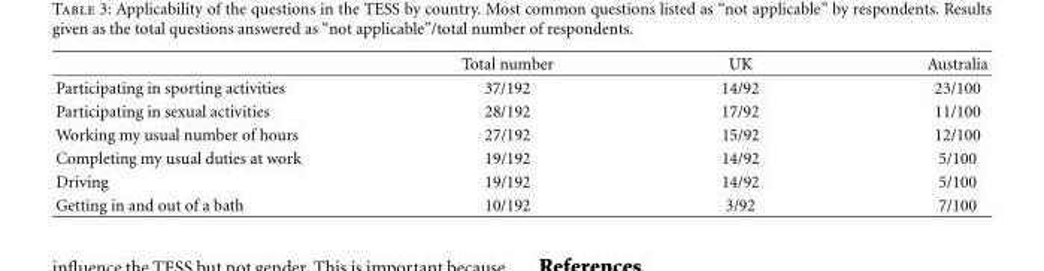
<table><thead><tr><td></td><td>Total number</td><td>UK</td><td>Australia</td></tr></thead><tbody><tr><td>Participating in sporting activities</td><td>37/192</td><td>14/92</td><td>23/100</td></tr><tr><td>Participating in sexual activities</td><td>28/192</td><td>17/92</td><td>11/100</td></tr><tr><td>Working my usual number of hours</td><td>27/192</td><td>15/92</td><td>12/100</td></tr><tr><td>Completing my usual duties at work</td><td>19/192</td><td>14/92</td><td>5/100</td></tr><tr><td>Driving</td><td>19/192</td><td>14/92</td><td>5/100</td></tr><tr><td>Getting in and out of a bath</td><td>10/192</td><td>3/92</td><td>7/100</td></tr></tbody></table>